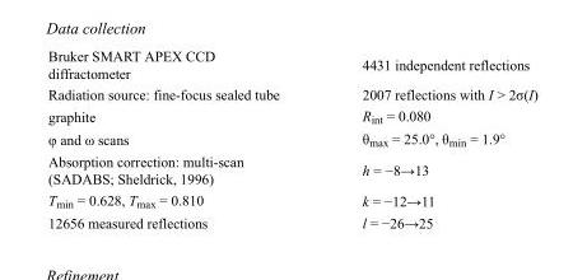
<table><tbody><tr><td>Bruker SMART APEX CCD diffractometer</td><td>4431 independent reflections</td></tr><tr><td>Radiation source: fine-focus sealed tube</td><td>2007 reflections with I &gt; 2σ(I)</td></tr><tr><td>graphite</td><td>R<sub>int</sub> = 0.080</td></tr><tr><td>φ and ω scans</td><td>θ<sub>max</sub> = 25.0°, θ<sub>min</sub> = 1.9°</td></tr><tr><td>Absorption correction: multi-scan (SADABS; Sheldrick, 1996)</td><td>h = −8→13</td></tr><tr><td>T<sub>min</sub> = 0.628, T<sub>max</sub> = 0.810</td><td>k = −12→11</td></tr><tr><td>12656 measured reflections</td><td>l = −26→25</td></tr></tbody></table>